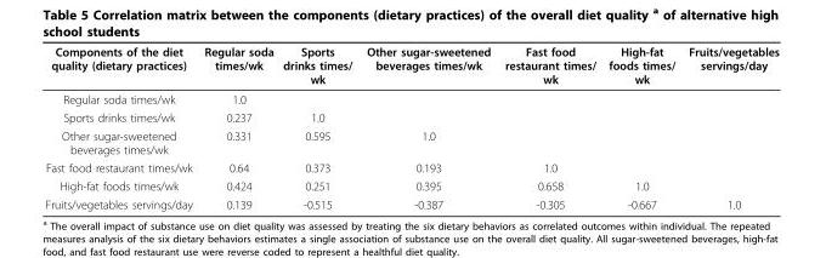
<table><thead><tr><td>Components of the diet quality (dietary practices)</td><td>Regular soda times/wk</td><td>Sports drinks times/ wk</td><td>Other sugar-sweetened beverages times/wk</td><td>Fast food restaurant times/ wk</td><td>High-fat foods times/ wk</td><td>Fruits/vegetables servings/day</td></tr></thead><tbody><tr><td>Regular soda times/wk</td><td>1.0</td><td></td><td></td><td></td><td></td><td></td></tr><tr><td>Sports drinks times/wk</td><td>0.237</td><td>1.0</td><td></td><td></td><td></td><td></td></tr><tr><td>Other sugar-sweetened beverages times/wk</td><td>0.331</td><td>0.595</td><td>1.0</td><td></td><td></td><td></td></tr><tr><td>Fast food restaurant times/wk</td><td>0.64</td><td>0.373</td><td>0.193</td><td>1.0</td><td></td><td></td></tr><tr><td>High-fat foods times/wk</td><td>0.424</td><td>0.251</td><td>0.395</td><td>0.658</td><td>1.0</td><td></td></tr><tr><td>Fruits/vegetables servings/day</td><td>0.139</td><td>-0.515</td><td>-0.387</td><td>-0.305</td><td>-0.667</td><td>1.0</td></tr></tbody></table>